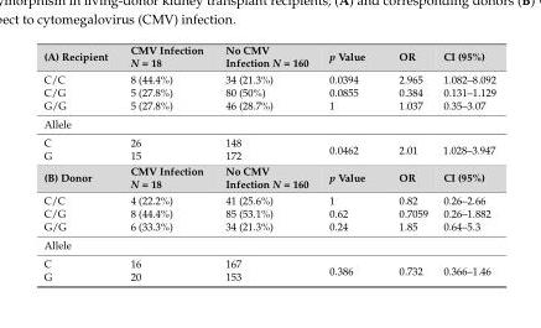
<table><tbody><tr><td>(A) Recipient</td><td>CMV Infection N = 18</td><td>No CMV Infection N = 160</td><td>p Value</td><td>OR</td><td>CI (95%)</td></tr><tr><td>C/C</td><td>8 (44.4%)</td><td>34 (21.3%)</td><td>0.0394</td><td>2.965</td><td>1.082–8.092</td></tr><tr><td>C/G</td><td>5 (27.8%)</td><td>80 (50%)</td><td>0.0855</td><td>0.384</td><td>0.131–1.129</td></tr><tr><td>G/G</td><td>5 (27.8%)</td><td>46 (28.7%)</td><td>1</td><td>1.037</td><td>0.35–3.07</td></tr><tr><td colspan="6">Allele</td></tr><tr><td>C</td><td>26</td><td>148</td><td rowspan="2">0.0462</td><td rowspan="2">2.01</td><td rowspan="2">1.028–3.947</td></tr><tr><td>G</td><td>15</td><td>172</td></tr><tr><td>(B) Donor</td><td>CMV Infection N = 18</td><td>No CMV Infection N = 160</td><td>p Value</td><td>OR</td><td>CI (95%)</td></tr><tr><td>C/C</td><td>4 (22.2%)</td><td>41 (25.6%)</td><td>1</td><td>0.82</td><td>0.26–2.66</td></tr><tr><td>C/G</td><td>8 (44.4%)</td><td>85 (53.1%)</td><td>0.62</td><td>0.7059</td><td>0.26–1.882</td></tr><tr><td>G/G</td><td>6 (33.3%)</td><td>34 (21.3%)</td><td>0.24</td><td>1.85</td><td>0.64–5.3</td></tr><tr><td colspan="6">Allele</td></tr><tr><td>C</td><td>16</td><td>167</td><td rowspan="2">0.386</td><td rowspan="2">0.732</td><td rowspan="2">0.366–1.46</td></tr><tr><td>G</td><td>20</td><td>153</td></tr></tbody></table>